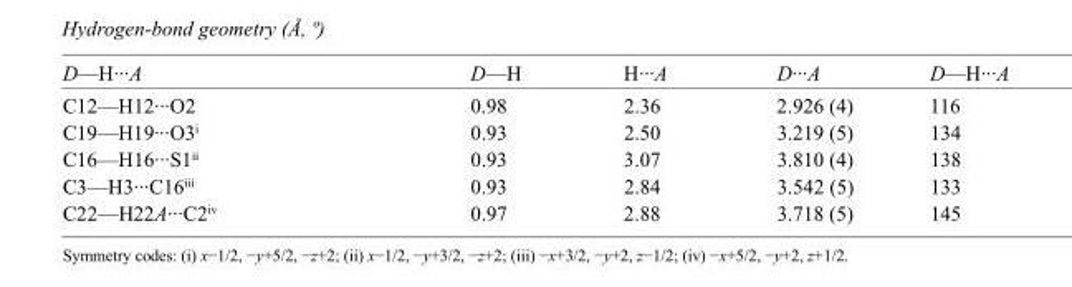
<table><tbody><tr><td>D—H···A</td><td>D—H</td><td>H···A</td><td>D···A</td><td>D—H···A</td></tr><tr><td>C12—H12···O2</td><td>0.98</td><td>2.36</td><td>2.926 (4)</td><td>116</td></tr><tr><td>C19—H19···O3<sup>i</sup></td><td>0.93</td><td>2.50</td><td>3.219 (5)</td><td>134</td></tr><tr><td>C16—H16···S1<sup>ii</sup></td><td>0.93</td><td>3.07</td><td>3.810 (4)</td><td>138</td></tr><tr><td>C3—H3···C16<sup>iii</sup></td><td>0.93</td><td>2.84</td><td>3.542 (5)</td><td>133</td></tr><tr><td>C22—H22A···C2<sup>iv</sup></td><td>0.97</td><td>2.88</td><td>3.718 (5)</td><td>145</td></tr></tbody></table>